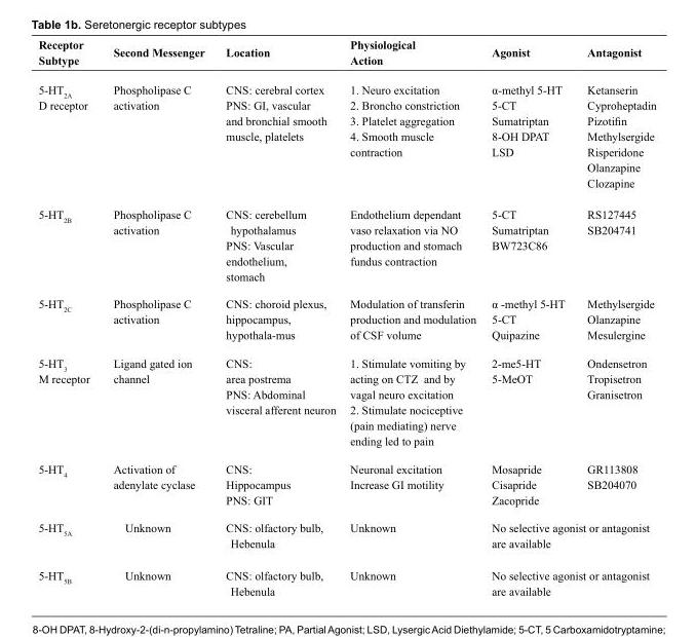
<table><thead><tr><td>Receptor Subtype</td><td>Second Messenger</td><td>Location</td><td>Physiological Action</td><td>Agonist</td><td>Antagonist</td></tr></thead><tbody><tr><td>5-HT<sub>2A</sub> D receptor</td><td>Phospholipase C activation</td><td>CNS: cerebral cortex PNS: GI, vascular and bronchial smooth muscle, platelets</td><td>1. Neuro excitation 2. Broncho constriction 3. Platelet aggregation 4. Smooth muscle contraction</td><td>α-methyl 5-HT 5-CT Sumatriptan 8-OH DPAT LSD</td><td>Ketanserin Cyproheptadin Pizotifin Methylsergide Risperidone Olanzapine Clozapine</td></tr><tr><td>5-HT<sub>2B</sub></td><td>Phospholipase C activation</td><td>CNS: cerebellum hypothalamus PNS: Vascular endothelium, stomach</td><td>Endothelium dependant vaso relaxation via NO production and stomach fundus contraction</td><td>5-CT Sumatriptan BW723C86</td><td>RS127445 SB204741</td></tr><tr><td>5-HT<sub>2C</sub></td><td>Phospholipase C activation</td><td>CNS: choroid plexus, hippocampus, hypothala-mus</td><td>Modulation of transferin production and modulation of CSF volume</td><td>α -methyl 5-HT 5-CT Quipazine</td><td>Methylsergide Olanzapine Mesulergine</td></tr><tr><td>5-HT<sub>3</sub> M receptor</td><td>Ligand gated ion channel</td><td>CNS: area postrema PNS: Abdominal visceral afferent neuron</td><td>1. Stimulate vomiting by acting on CTZ and by vagal neuro excitation 2. Stimulate nociceptive (pain mediating) nerve ending led to pain</td><td>2-me5-HT 5-MeOT</td><td>Ondensetron Tropisetron Granisetron</td></tr><tr><td>5-HT<sub>4</sub></td><td>Activation of adenylate cyclase</td><td>CNS: Hippocampus PNS: GIT</td><td>Neuronal excitation Increase GI motility</td><td>Mosapride Cisapride Zacopride</td><td>GR113808 SB204070</td></tr><tr><td>5-HT<sub>5A</sub></td><td>Unknown</td><td>CNS: olfactory bulb, Hebenula</td><td>Unknown</td><td colspan="2">No selective agonist or antagonist are available</td></tr><tr><td>5-HT<sub>5B</sub></td><td>Unknown</td><td>CNS: olfactory bulb, Hebenula</td><td>Unknown</td><td colspan="2">No selective agonist or antagonist are available</td></tr></tbody></table>